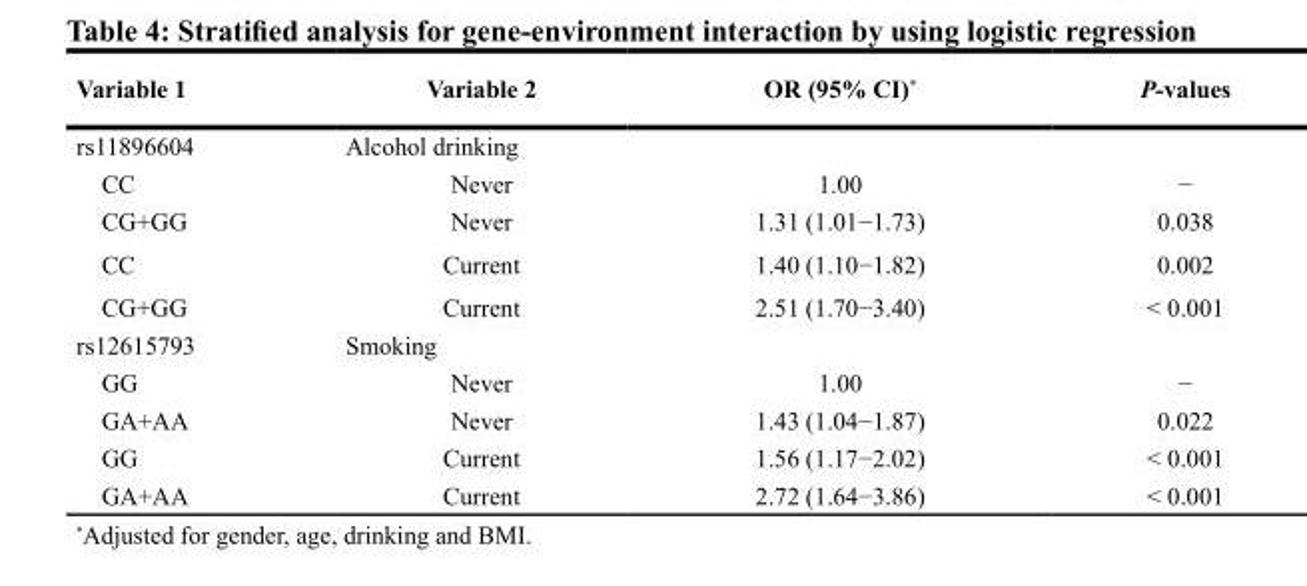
<table><thead><tr><td>Variable 1</td><td>Variable 2</td><td>OR (95% CI)*</td><td>P-values</td></tr></thead><tbody><tr><td>rs11896604</td><td>Alcohol drinking</td><td></td><td></td></tr><tr><td>CC</td><td>Never</td><td>1.00</td><td>−</td></tr><tr><td>CG+GG</td><td>Never</td><td>1.31 (1.01−1.73)</td><td>0.038</td></tr><tr><td>CC</td><td>Current</td><td>1.40 (1.10−1.82)</td><td>0.002</td></tr><tr><td>CG+GG</td><td>Current</td><td>2.51 (1.70−3.40)</td><td>&lt; 0.001</td></tr><tr><td>rs12615793</td><td>Smoking</td><td></td><td></td></tr><tr><td>GG</td><td>Never</td><td>1.00</td><td>−</td></tr><tr><td>GA+AA</td><td>Never</td><td>1.43 (1.04−1.87)</td><td>0.022</td></tr><tr><td>GG</td><td>Current</td><td>1.56 (1.17−2.02)</td><td>&lt; 0.001</td></tr><tr><td>GA+AA</td><td>Current</td><td>2.72 (1.64−3.86)</td><td>&lt; 0.001</td></tr></tbody></table>